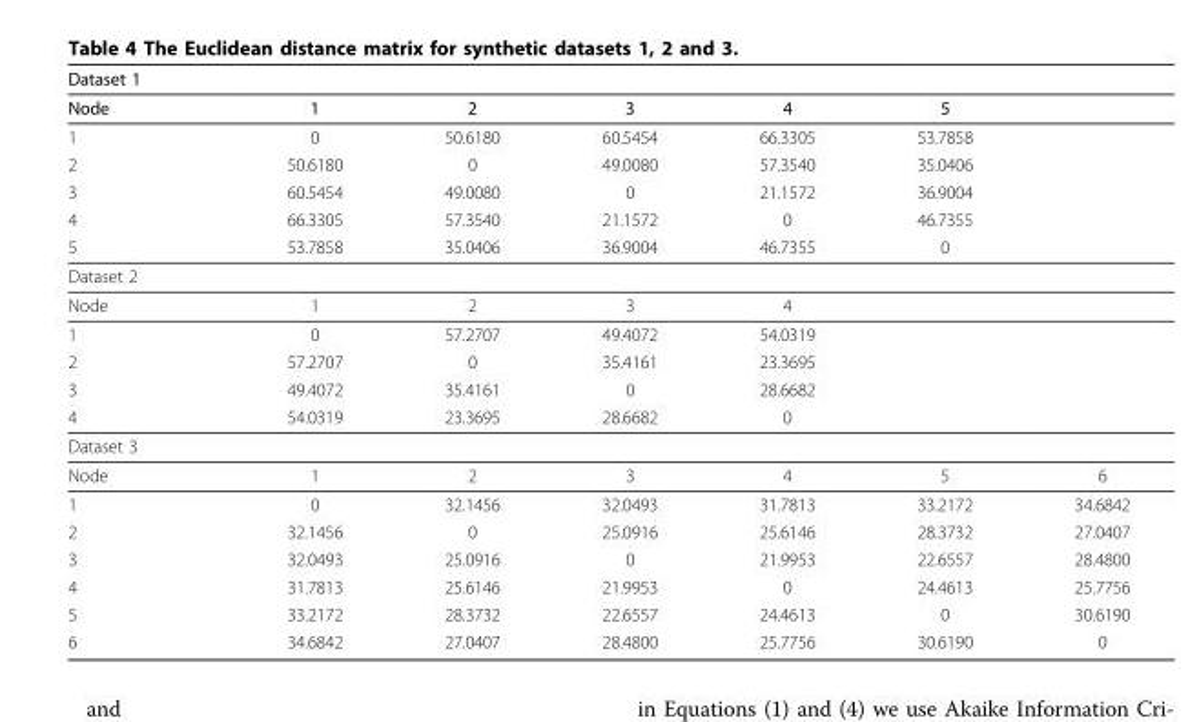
<table><thead><tr><td>Dataset 1</td><td></td><td></td><td></td><td></td><td></td><td></td></tr></thead><tbody><tr><td>Node</td><td>1</td><td>2</td><td>3</td><td>4</td><td>5</td><td></td></tr><tr><td>1</td><td>0</td><td>50.6180</td><td>60.5454</td><td>66.3305</td><td>53.7858</td><td></td></tr><tr><td>2</td><td>50.6180</td><td>0</td><td>49.0080</td><td>57.3540</td><td>35.0406</td><td></td></tr><tr><td>3</td><td>60.5454</td><td>49.0080</td><td>0</td><td>21.1572</td><td>36.9004</td><td></td></tr><tr><td>4</td><td>66.3305</td><td>57.3540</td><td>21.1572</td><td>0</td><td>46.7355</td><td></td></tr><tr><td>5</td><td>53.7858</td><td>35.0406</td><td>36.9004</td><td>46.7355</td><td>0</td><td></td></tr><tr><td colspan="7">Dataset 2</td></tr><tr><td>Node</td><td>1</td><td>2</td><td>3</td><td>4</td><td></td><td></td></tr><tr><td>1</td><td>0</td><td>57.2707</td><td>49.4072</td><td>54.0319</td><td></td><td></td></tr><tr><td>2</td><td>57.2707</td><td>0</td><td>35.4161</td><td>23.3695</td><td></td><td></td></tr><tr><td>3</td><td>49.4072</td><td>35.4161</td><td>0</td><td>28.6682</td><td></td><td></td></tr><tr><td>4</td><td>54.0319</td><td>23.3695</td><td>28.6682</td><td>0</td><td></td><td></td></tr><tr><td colspan="7">Dataset 3</td></tr><tr><td>Node</td><td>1</td><td>2</td><td>3</td><td>4</td><td>5</td><td>6</td></tr><tr><td>1</td><td>0</td><td>32.1456</td><td>32.0493</td><td>31.7813</td><td>33.2172</td><td>34.6842</td></tr><tr><td>2</td><td>32.1456</td><td>0</td><td>25.0916</td><td>25.6146</td><td>28.3732</td><td>27.0407</td></tr><tr><td>3</td><td>32.0493</td><td>25.0916</td><td>0</td><td>21.9953</td><td>22.6557</td><td>28.4800</td></tr><tr><td>4</td><td>31.7813</td><td>25.6146</td><td>21.9953</td><td>0</td><td>24.4613</td><td>25.7756</td></tr><tr><td>5</td><td>33.2172</td><td>28.3732</td><td>22.6557</td><td>24.4613</td><td>0</td><td>30.6190</td></tr><tr><td>6</td><td>34.6842</td><td>27.0407</td><td>28.4800</td><td>25.7756</td><td>30.6190</td><td>0</td></tr></tbody></table>